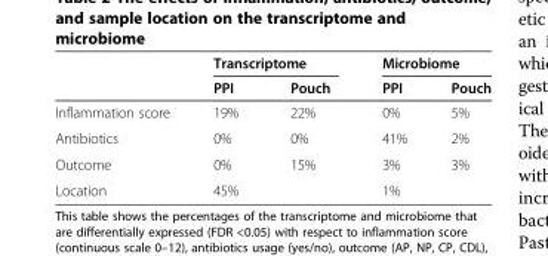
<table><thead><tr><td rowspan="2"></td><td colspan="2">Transcriptome</td><td colspan="2">Microbiome</td></tr><tr><td>PPI</td><td>Pouch</td><td>PPI</td><td>Pouch</td></tr></thead><tbody><tr><td>Inflammation score</td><td>19%</td><td>22%</td><td>0%</td><td>5%</td></tr><tr><td>Antibiotics</td><td>0%</td><td>0%</td><td>41%</td><td>2%</td></tr><tr><td>Outcome</td><td>0%</td><td>15%</td><td>3%</td><td>3%</td></tr><tr><td>Location</td><td>45%</td><td></td><td>1%</td><td></td></tr></tbody></table>